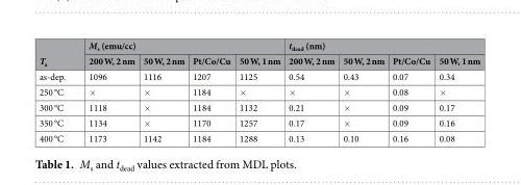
<table><thead><tr><td rowspan="2">T<sub>a</sub></td><td colspan="4">M<sub>s</sub> (emu/cc)</td><td colspan="4">t<sub>dead</sub> (nm)</td></tr><tr><td>200 W, 2 nm</td><td>50 W, 2 nm</td><td>Pt/Co/Cu</td><td>50 W, 1 nm</td><td>200 W, 2 nm</td><td>50 W, 2 nm</td><td>Pt/Co/Cu</td><td>50 W, 1 nm</td></tr></thead><tbody><tr><td>as-dep.</td><td>1096</td><td>1116</td><td>1207</td><td>1125</td><td>0.54</td><td>0.43</td><td>0.07</td><td>0.34</td></tr><tr><td>250 °C</td><td>×</td><td>×</td><td>1184</td><td>×</td><td>×</td><td>×</td><td>0.08</td><td>×</td></tr><tr><td>300 °C</td><td>1118</td><td>×</td><td>1184</td><td>1132</td><td>0.21</td><td>×</td><td>0.09</td><td>0.17</td></tr><tr><td>350 °C</td><td>1134</td><td>×</td><td>1170</td><td>1257</td><td>0.17</td><td>×</td><td>0.09</td><td>0.16</td></tr><tr><td>400 °C</td><td>1173</td><td>1142</td><td>1184</td><td>1288</td><td>0.13</td><td>0.10</td><td>0.16</td><td>0.08</td></tr></tbody></table>